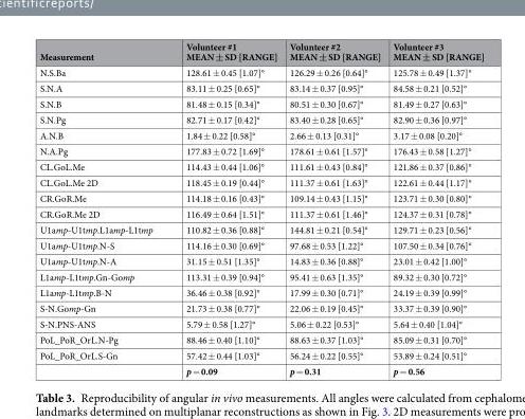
<table><thead><tr><td>Measurement</td><td>Volunteer #1 MEAN ± SD [RANGE]</td><td>Volunteer #2 MEAN ± SD [RANGE]</td><td>Volunteer #3 MEAN ± SD [RANGE]</td></tr></thead><tbody><tr><td>N.S.Ba</td><td>128.61 ± 0.45 [1.07]°</td><td>126.29 ± 0.26 [0.64]°</td><td>125.78 ± 0.49 [1.37]°</td></tr><tr><td>S.N.A</td><td>83.11 ± 0.25 [0.65]°</td><td>83.14 ± 0.37 [0.95]°</td><td>84.58 ± 0.21 [0.52]°</td></tr><tr><td>S.N.B</td><td>81.48 ± 0.15 [0.34]°</td><td>80.51 ± 0.30 [0.67]°</td><td>81.49 ± 0.27 [0.63]°</td></tr><tr><td>S.N.Pg</td><td>82.71 ± 0.17 [0.42]°</td><td>83.40 ± 0.28 [0.65]°</td><td>82.90 ± 0.36 [0.97]°</td></tr><tr><td>A.N.B</td><td>1.84 ± 0.22 [0.58]°</td><td>2.66 ± 0.13 [0.31]°</td><td>3.17 ± 0.08 [0.20]°</td></tr><tr><td>N.A.Pg</td><td>177.83 ± 0.72 [1.69]°</td><td>178.61 ± 0.61 [1.57]°</td><td>176.43 ± 0.58 [1.27]°</td></tr><tr><td>CL.GoL.Me</td><td>114.43 ± 0.44 [1.06]°</td><td>111.61 ± 0.43 [0.84]°</td><td>121.86 ± 0.37 [0.86]°</td></tr><tr><td>CL.GoL.Me 2D</td><td>118.45 ± 0.19 [0.44]°</td><td>111.37 ± 0.61 [1.63]°</td><td>122.61 ± 0.44 [1.17]°</td></tr><tr><td>CR.GoR.Me</td><td>114.18 ± 0.16 [0.43]°</td><td>109.14 ± 0.43 [1.15]°</td><td>123.71 ± 0.30 [0.80]°</td></tr><tr><td>CR.GoR.Me 2D</td><td>116.49 ± 0.64 [1.51]°</td><td>111.37 ± 0.61 [1.46]°</td><td>124.37 ± 0.31 [0.78]°</td></tr><tr><td>U1amp-U1tmp.L1amp-L1tmp</td><td>110.82 ± 0.36 [0.88]°</td><td>144.81 ± 0.21 [0.54]°</td><td>129.71 ± 0.23 [0.56]°</td></tr><tr><td>U1amp-U1tmp.N-S</td><td>114.16 ± 0.30 [0.69]°</td><td>97.68 ± 0.53 [1.22]°</td><td>107.50 ± 0.34 [0.76]°</td></tr><tr><td>U1amp-U1tmp.N-A</td><td>31.15 ± 0.51 [1.35]°</td><td>14.83 ± 0.36 [0.88]°</td><td>23.01 ± 0.42 [1.00]°</td></tr><tr><td>L1amp-L1tmp.Gn-Gomp</td><td>113.31 ± 0.39 [0.94]°</td><td>95.41 ± 0.63 [1.35]°</td><td>89.32 ± 0.30 [0.72]°</td></tr><tr><td>L1amp-L1tmp.B-N</td><td>36.46 ± 0.38 [0.92]°</td><td>17.99 ± 0.30 [0.71]°</td><td>24.19 ± 0.39 [0.99]°</td></tr><tr><td>S-N.Gomp-Gn</td><td>21.73 ± 0.38 [0.77]°</td><td>22.06 ± 0.19 [0.45]°</td><td>33.37 ± 0.39 [0.90]°</td></tr><tr><td>S-N.PNS-ANS</td><td>5.79 ± 0.58 [1.27]°</td><td>5.06 ± 0.22 [0.53]°</td><td>5.64 ± 0.40 [1.04]°</td></tr><tr><td>PoL_PoR_OrL.N-Pg</td><td>88.46 ± 0.40 [1.10]°</td><td>88.63 ± 0.37 [1.03]°</td><td>85.09 ± 0.31 [0.70]°</td></tr><tr><td rowspan="2">PoL_PoR_OrL.S-Gn</td><td>57.42 ± 0.44 [1.03]°</td><td>56.24 ± 0.22 [0.55]°</td><td>53.89 ± 0.24 [0.51]°</td></tr><tr><td>p = 0.09</td><td>p = 0.31</td><td>p = 0.56</td></tr></tbody></table>